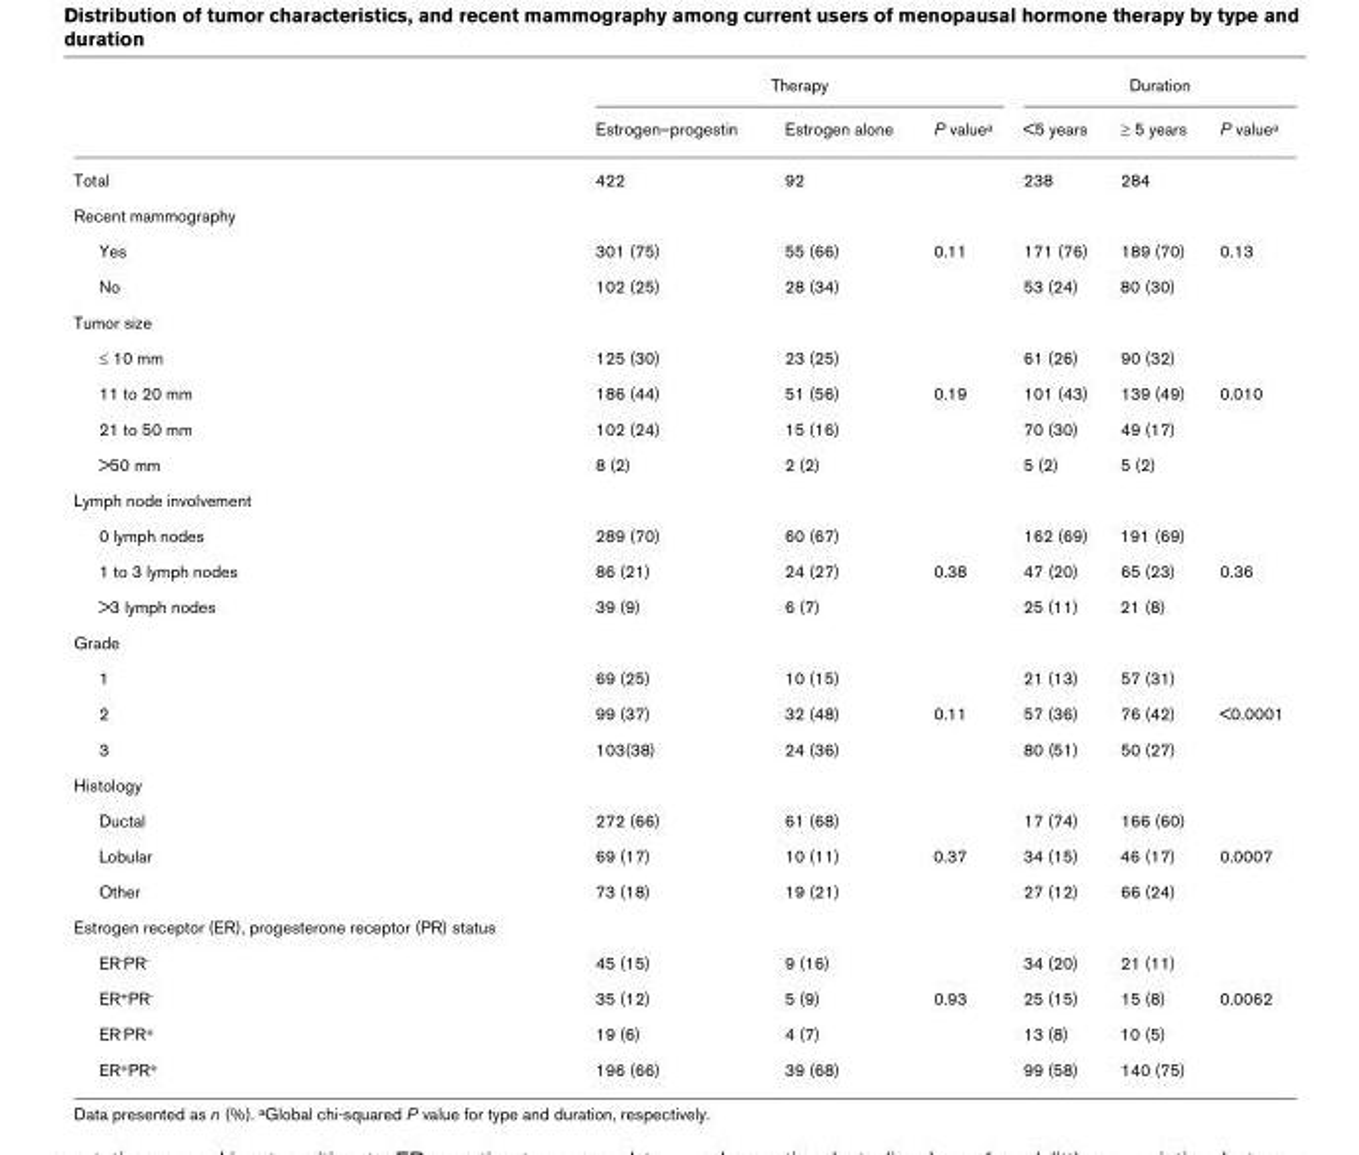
<table><thead><tr><td rowspan="2"></td><td colspan="3">Therapy</td><td colspan="3">Duration</td></tr><tr><td>Estrogen–progestin</td><td>Estrogen alone</td><td>P value<sup>a</sup></td><td>&lt;5 years</td><td>≥ 5 years</td><td>P value<sup>a</sup></td></tr></thead><tbody><tr><td>Total</td><td>422</td><td>92</td><td></td><td>238</td><td>284</td><td></td></tr><tr><td colspan="7">Recent mammography</td></tr><tr><td>Yes</td><td>301 (75)</td><td>55 (66)</td><td>0.11</td><td>171 (76)</td><td>189 (70)</td><td>0.13</td></tr><tr><td>No</td><td>102 (25)</td><td>28 (34)</td><td></td><td>53 (24)</td><td>80 (30)</td><td></td></tr><tr><td colspan="7">Tumor size</td></tr><tr><td>≤ 10 mm</td><td>125 (30)</td><td>23 (25)</td><td></td><td>61 (26)</td><td>90 (32)</td><td></td></tr><tr><td>11 to 20 mm</td><td>186 (44)</td><td>51 (56)</td><td>0.19</td><td>101 (43)</td><td>139 (49)</td><td>0.010</td></tr><tr><td>21 to 50 mm</td><td>102 (24)</td><td>15 (16)</td><td></td><td>70 (30)</td><td>49 (17)</td><td></td></tr><tr><td>&gt;50 mm</td><td>8 (2)</td><td>2 (2)</td><td></td><td>5 (2)</td><td>5 (2)</td><td></td></tr><tr><td colspan="7">Lymph node involvement</td></tr><tr><td>0 lymph nodes</td><td>289 (70)</td><td>60 (67)</td><td></td><td>162 (69)</td><td>191 (69)</td><td></td></tr><tr><td>1 to 3 lymph nodes</td><td>86 (21)</td><td>24 (27)</td><td>0.38</td><td>47 (20)</td><td>65 (23)</td><td>0.36</td></tr><tr><td>&gt;3 lymph nodes</td><td>39 (9)</td><td>6 (7)</td><td></td><td>25 (11)</td><td>21 (8)</td><td></td></tr><tr><td colspan="7">Grade</td></tr><tr><td>1</td><td>69 (25)</td><td>10 (15)</td><td></td><td>21 (13)</td><td>57 (31)</td><td></td></tr><tr><td>2</td><td>99 (37)</td><td>32 (48)</td><td>0.11</td><td>57 (36)</td><td>76 (42)</td><td>&lt;0.0001</td></tr><tr><td>3</td><td>103(38)</td><td>24 (36)</td><td></td><td>80 (51)</td><td>50 (27)</td><td></td></tr><tr><td colspan="7">Histology</td></tr><tr><td>Ductal</td><td>272 (66)</td><td>61 (68)</td><td></td><td>17 (74)</td><td>166 (60)</td><td></td></tr><tr><td>Lobular</td><td>69 (17)</td><td>10 (11)</td><td>0.37</td><td>34 (15)</td><td>46 (17)</td><td>0.0007</td></tr><tr><td>Other</td><td>73 (18)</td><td>19 (21)</td><td></td><td>27 (12)</td><td>66 (24)</td><td></td></tr><tr><td colspan="7">Estrogen receptor (ER), progesterone receptor (PR) status</td></tr><tr><td>ER<sup>-</sup>PR<sup>-</sup></td><td>45 (15)</td><td>9 (16)</td><td></td><td>34 (20)</td><td>21 (11)</td><td></td></tr><tr><td>ER<sup>+</sup>PR<sup>-</sup></td><td>35 (12)</td><td>5 (9)</td><td>0.93</td><td>25 (15)</td><td>15 (8)</td><td>0.0062</td></tr><tr><td>ER<sup>-</sup>PR<sup>+</sup></td><td>19 (6)</td><td>4 (7)</td><td></td><td>13 (8)</td><td>10 (5)</td><td></td></tr><tr><td>ER<sup>+</sup>PR<sup>+</sup></td><td>196 (66)</td><td>39 (68)</td><td></td><td>99 (58)</td><td>140 (75)</td><td></td></tr></tbody></table>